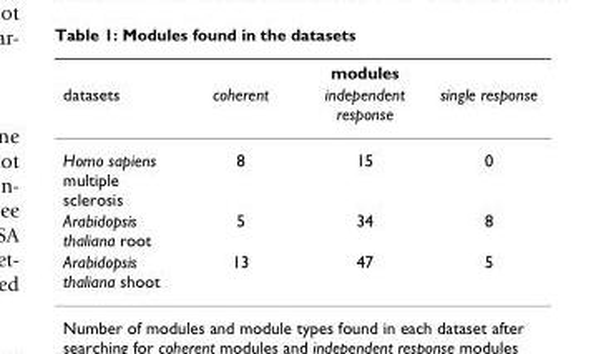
<table><thead><tr><td rowspan="2">datasets</td><td colspan="3">modules</td></tr><tr><td>coherent</td><td>independent response</td><td>single response</td></tr></thead><tbody><tr><td>Homo sapiens multiple sclerosis</td><td>8</td><td>15</td><td>0</td></tr><tr><td>Arabidopsis thaliana root</td><td>5</td><td>34</td><td>8</td></tr><tr><td>Arabidopsis thaliana shoot</td><td>13</td><td>47</td><td>5</td></tr></tbody></table>